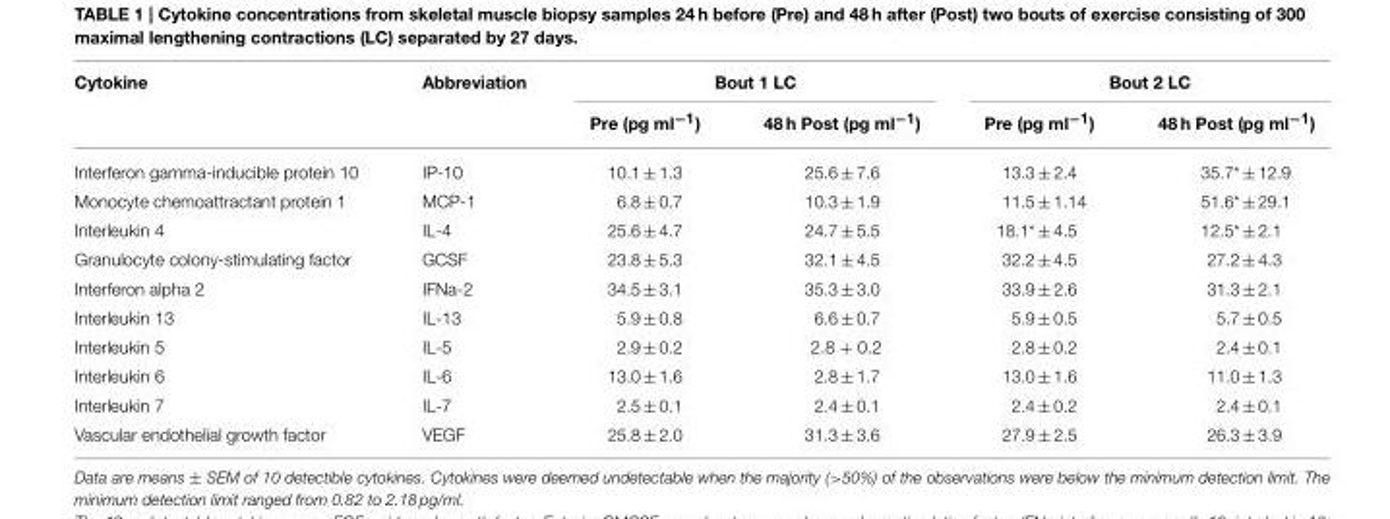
<table><thead><tr><td rowspan="2">Cytokine</td><td rowspan="2">Abbreviation</td><td colspan="2">Bout 1 LC</td><td colspan="2">Bout 2 LC</td></tr><tr><td>Pre (pg ml<sup>−1</sup>)</td><td>48 h Post (pg ml<sup>−1</sup>)</td><td>Pre (pg ml<sup>−1</sup>)</td><td>48 h Post (pg ml<sup>−1</sup>)</td></tr></thead><tbody><tr><td>Interferon gamma-inducible protein 10</td><td>IP-10</td><td>10.1 ± 1.3</td><td>25.6 ± 7.6</td><td>13.3 ± 2.4</td><td>35.7* ± 12.9</td></tr><tr><td>Monocyte chemoattractant protein 1</td><td>MCP-1</td><td>6.8 ± 0.7</td><td>10.3 ± 1.9</td><td>11.5 ± 1.14</td><td>51.6* ± 29.1</td></tr><tr><td>Interleukin 4</td><td>IL-4</td><td>25.6 ± 4.7</td><td>24.7 ± 5.5</td><td>18.1* ± 4.5</td><td>12.5* ± 2.1</td></tr><tr><td>Granulocyte colony-stimulating factor</td><td>GCSF</td><td>23.8 ± 5.3</td><td>32.1 ± 4.5</td><td>32.2 ± 4.5</td><td>27.2 ± 4.3</td></tr><tr><td>Interferon alpha 2</td><td>IFNa-2</td><td>34.5 ± 3.1</td><td>35.3 ± 3.0</td><td>33.9 ± 2.6</td><td>31.3 ± 2.1</td></tr><tr><td>Interleukin 13</td><td>IL-13</td><td>5.9 ± 0.8</td><td>6.6 ± 0.7</td><td>5.9 ± 0.5</td><td>5.7 ± 0.5</td></tr><tr><td>Interleukin 5</td><td>IL-5</td><td>2.9 ± 0.2</td><td>2.8 + 0.2</td><td>2.8 ± 0.2</td><td>2.4 ± 0.1</td></tr><tr><td>Interleukin 6</td><td>IL-6</td><td>13.0 ± 1.6</td><td>2.8 ± 1.7</td><td>13.0 ± 1.6</td><td>11.0 ± 1.3</td></tr><tr><td>Interleukin 7</td><td>IL-7</td><td>2.5 ± 0.1</td><td>2.4 ± 0.1</td><td>2.4 ± 0.2</td><td>2.4 ± 0.1</td></tr><tr><td>Vascular endothelial growth factor</td><td>VEGF</td><td>25.8 ± 2.0</td><td>31.3 ± 3.6</td><td>27.9 ± 2.5</td><td>26.3 ± 3.9</td></tr></tbody></table>